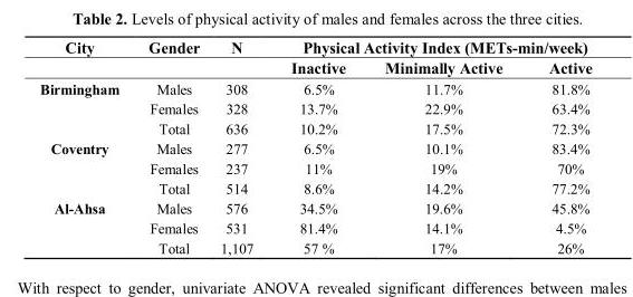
<table><thead><tr><td rowspan="2">City</td><td rowspan="2">Gender</td><td rowspan="2">N</td><td colspan="3">Physical Activity Index (METs-min/week)</td></tr><tr><td>Inactive</td><td>Minimally Active</td><td>Active</td></tr></thead><tbody><tr><td rowspan="3">Birmingham</td><td>Males</td><td>308</td><td>6.5%</td><td>11.7%</td><td>81.8%</td></tr><tr><td>Females</td><td>328</td><td>13.7%</td><td>22.9%</td><td>63.4%</td></tr><tr><td>Total</td><td>636</td><td>10.2%</td><td>17.5%</td><td>72.3%</td></tr><tr><td rowspan="3">Coventry</td><td>Males</td><td>277</td><td>6.5%</td><td>10.1%</td><td>83.4%</td></tr><tr><td>Females</td><td>237</td><td>11%</td><td>19%</td><td>70%</td></tr><tr><td>Total</td><td>514</td><td>8.6%</td><td>14.2%</td><td>77.2%</td></tr><tr><td rowspan="3">Al-Ahsa</td><td>Males</td><td>576</td><td>34.5%</td><td>19.6%</td><td>45.8%</td></tr><tr><td>Females</td><td>531</td><td>81.4%</td><td>14.1%</td><td>4.5%</td></tr><tr><td>Total</td><td>1,107</td><td>57 %</td><td>17%</td><td>26%</td></tr></tbody></table>